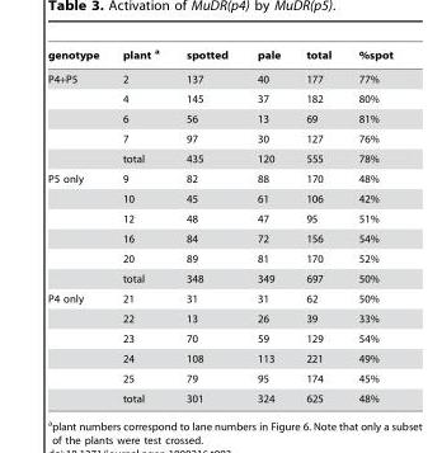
<table><thead><tr><td>genotype</td><td>plant a</td><td>spotted</td><td>pale</td><td>total</td><td>%spot</td></tr></thead><tbody><tr><td rowspan="5">P4+P5</td><td>2</td><td>137</td><td>40</td><td>177</td><td>77%</td></tr><tr><td>4</td><td>145</td><td>37</td><td>182</td><td>80%</td></tr><tr><td>6</td><td>56</td><td>13</td><td>69</td><td>81%</td></tr><tr><td>7</td><td>97</td><td>30</td><td>127</td><td>76%</td></tr><tr><td>total</td><td>435</td><td>120</td><td>555</td><td>78%</td></tr><tr><td rowspan="6">P5 only</td><td>9</td><td>82</td><td>88</td><td>170</td><td>48%</td></tr><tr><td>10</td><td>45</td><td>61</td><td>106</td><td>42%</td></tr><tr><td>12</td><td>48</td><td>47</td><td>95</td><td>51%</td></tr><tr><td>16</td><td>84</td><td>72</td><td>156</td><td>54%</td></tr><tr><td>20</td><td>89</td><td>81</td><td>170</td><td>52%</td></tr><tr><td>total</td><td>348</td><td>349</td><td>697</td><td>50%</td></tr><tr><td rowspan="6">P4 only</td><td>21</td><td>31</td><td>31</td><td>62</td><td>50%</td></tr><tr><td>22</td><td>13</td><td>26</td><td>39</td><td>33%</td></tr><tr><td>23</td><td>70</td><td>59</td><td>129</td><td>54%</td></tr><tr><td>24</td><td>108</td><td>113</td><td>221</td><td>49%</td></tr><tr><td>25</td><td>79</td><td>95</td><td>174</td><td>45%</td></tr><tr><td>total</td><td>301</td><td>324</td><td>625</td><td>48%</td></tr></tbody></table>